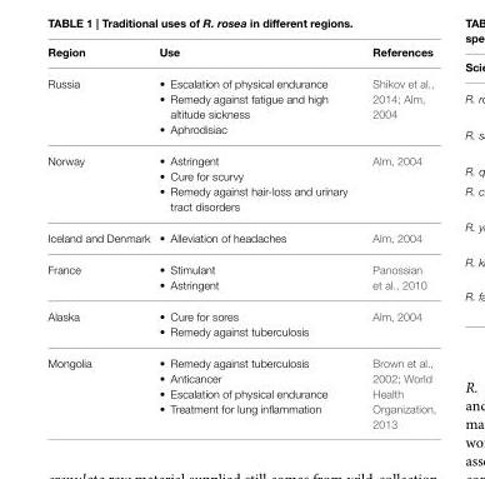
<table><thead><tr><td>Region</td><td>Use</td><td>References</td></tr></thead><tbody><tr><td>Russia</td><td>• Escalation of physical endurance • Remedy against fatigue and high altitude sickness • Aphrodisiac</td><td>Shikov et al., 2014; Alm, 2004</td></tr><tr><td>Norway</td><td>• Astringent • Cure for scurvy • Remedy against hair-loss and urinary tract disorders</td><td>Alm, 2004</td></tr><tr><td>Iceland and Denmark</td><td>• Alleviation of headaches</td><td>Alm, 2004</td></tr><tr><td>France</td><td>• Stimulant • Astringent</td><td>Panossian et al., 2010</td></tr><tr><td>Alaska</td><td>• Cure for sores • Remedy against tuberculosis</td><td>Alm, 2004</td></tr><tr><td>Mongolia</td><td>• Remedy against tuberculosis • Anticancer • Escalation of physical endurance • Treatment for lung inflammation</td><td>Brown et al., 2002; World Health Organization, 2013</td></tr></tbody></table>